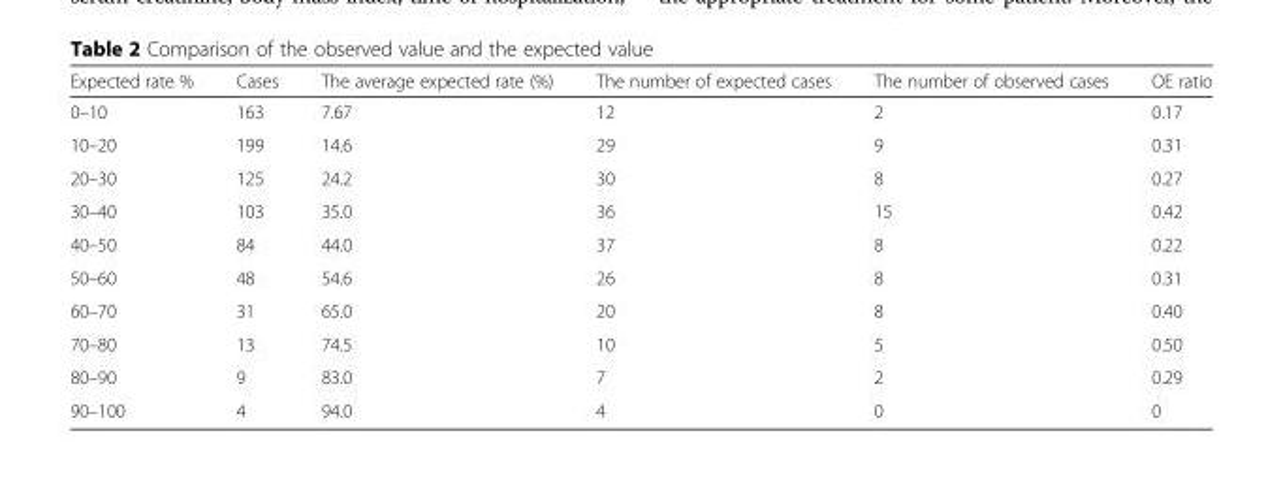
<table><thead><tr><td>Expected rate %</td><td>Cases</td><td>The average expected rate (%)</td><td>The number of expected cases</td><td>The number of observed cases</td><td>OE ratio</td></tr></thead><tbody><tr><td>0–10</td><td>163</td><td>7.67</td><td>12</td><td>2</td><td>0.17</td></tr><tr><td>10–20</td><td>199</td><td>14.6</td><td>29</td><td>9</td><td>0.31</td></tr><tr><td>20–30</td><td>125</td><td>24.2</td><td>30</td><td>8</td><td>0.27</td></tr><tr><td>30–40</td><td>103</td><td>35.0</td><td>36</td><td>15</td><td>0.42</td></tr><tr><td>40–50</td><td>84</td><td>44.0</td><td>37</td><td>8</td><td>0.22</td></tr><tr><td>50–60</td><td>48</td><td>54.6</td><td>26</td><td>8</td><td>0.31</td></tr><tr><td>60–70</td><td>31</td><td>65.0</td><td>20</td><td>8</td><td>0.40</td></tr><tr><td>70–80</td><td>13</td><td>74.5</td><td>10</td><td>5</td><td>0.50</td></tr><tr><td>80–90</td><td>9</td><td>83.0</td><td>7</td><td>2</td><td>0.29</td></tr><tr><td>90–100</td><td>4</td><td>94.0</td><td>4</td><td>0</td><td>0</td></tr></tbody></table>